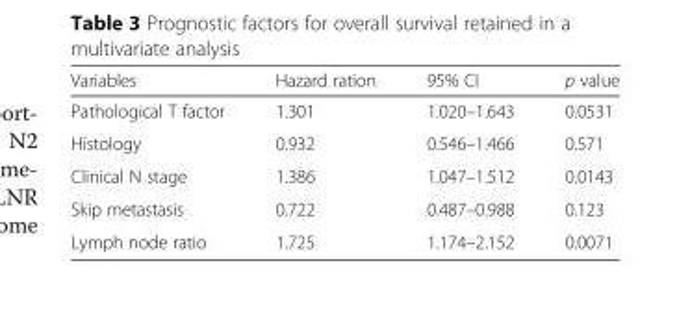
<table><thead><tr><td>Variables</td><td>Hazard ration</td><td>95% CI</td><td>p value</td></tr></thead><tbody><tr><td>Pathological T factor</td><td>1.301</td><td>1.020–1.643</td><td>0.0531</td></tr><tr><td>Histology</td><td>0.932</td><td>0.546–1.466</td><td>0.571</td></tr><tr><td>Clinical N stage</td><td>1.386</td><td>1.047–1.512</td><td>0.0143</td></tr><tr><td>Skip metastasis</td><td>0.722</td><td>0.487–0.988</td><td>0.123</td></tr><tr><td>Lymph node ratio</td><td>1.725</td><td>1.174–2.152</td><td>0.0071</td></tr></tbody></table>